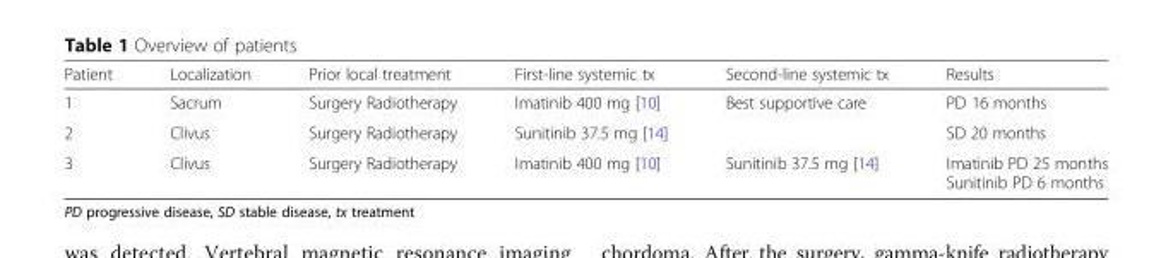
<table><thead><tr><td>Patient</td><td>Localization</td><td>Prior local treatment</td><td>First-line systemic tx</td><td>Second-line systemic tx</td><td>Results</td></tr></thead><tbody><tr><td>1</td><td>Sacrum</td><td>Surgery Radiotherapy</td><td>Imatinib 400 mg [10]</td><td>Best supportive care</td><td>PD 16 months</td></tr><tr><td>2</td><td>Clivus</td><td>Surgery Radiotherapy</td><td>Sunitinib 37.5 mg [14]</td><td></td><td>SD 20 months</td></tr><tr><td>3</td><td>Clivus</td><td>Surgery Radiotherapy</td><td>Imatinib 400 mg [10]</td><td>Sunitinib 37.5 mg [14]</td><td>Imatinib PD 25 months Sunitinib PD 6 months</td></tr></tbody></table>